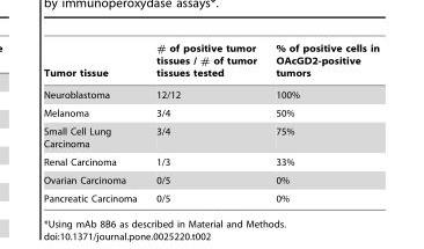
<table><thead><tr><td>Tumor tissue</td><td># of positive tumor tissues / # of tumor tissues tested</td><td>% of positive cells in OAcGD2-positive tumors</td></tr></thead><tbody><tr><td>Neuroblastoma</td><td>12/12</td><td>100%</td></tr><tr><td>Melanoma</td><td>3/4</td><td>50%</td></tr><tr><td>Small Cell Lung Carcinoma</td><td>3/4</td><td>75%</td></tr><tr><td>Renal Carcinoma</td><td>1/3</td><td>33%</td></tr><tr><td>Ovarian Carcinoma</td><td>0/5</td><td>0%</td></tr><tr><td>Pancreatic Carcinoma</td><td>0/5</td><td>0%</td></tr></tbody></table>